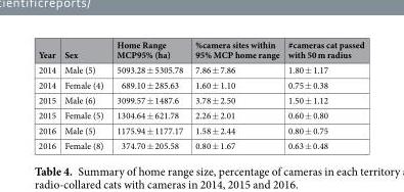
<table><thead><tr><td>Year</td><td>Sex</td><td>Home Range MCP95% (ha)</td><td>%camera sites within 95% MCP home range</td><td>#cameras cat passed with 50 m radius</td></tr></thead><tbody><tr><td>2014</td><td>Male (5)</td><td>5093.28 ± 5305.78</td><td>7.86 ± 7.86</td><td>1.80 ± 1.17</td></tr><tr><td>2014</td><td>Female (4)</td><td>689.10 ± 285.63</td><td>1.60 ± 1.10</td><td>0.75 ± 0.38</td></tr><tr><td>2015</td><td>Male (6)</td><td>3099.57 ± 1487.6</td><td>3.78 ± 2.50</td><td>1.50 ± 1.12</td></tr><tr><td>2015</td><td>Female (5)</td><td>1304.64 ± 621.78</td><td>2.26 ± 2.01</td><td>0.60 ± 0.80</td></tr><tr><td>2016</td><td>Male (5)</td><td>1175.94 ± 1177.17</td><td>1.58 ± 2.44</td><td>0.80 ± 0.75</td></tr><tr><td>2016</td><td>Female (8)</td><td>374.70 ± 205.58</td><td>0.80 ± 1.67</td><td>0.63 ± 0.48</td></tr></tbody></table>